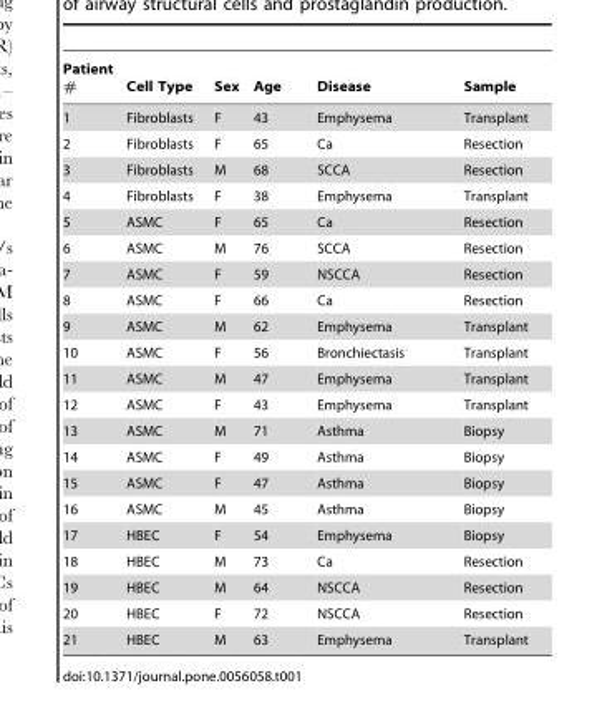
<table><thead><tr><td>Patient #</td><td>Cell Type</td><td>Sex</td><td>Age</td><td>Disease</td><td>Sample</td></tr></thead><tbody><tr><td>1</td><td>Fibroblasts</td><td>F</td><td>43</td><td>Emphysema</td><td>Transplant</td></tr><tr><td>2</td><td>Fibroblasts</td><td>F</td><td>65</td><td>Ca</td><td>Resection</td></tr><tr><td>3</td><td>Fibroblasts</td><td>M</td><td>68</td><td>SCCA</td><td>Resection</td></tr><tr><td>4</td><td>Fibroblasts</td><td>F</td><td>38</td><td>Emphysema</td><td>Transplant</td></tr><tr><td>5</td><td>ASMC</td><td>F</td><td>65</td><td>Ca</td><td>Resection</td></tr><tr><td>6</td><td>ASMC</td><td>M</td><td>76</td><td>SCCA</td><td>Resection</td></tr><tr><td>7</td><td>ASMC</td><td>F</td><td>59</td><td>NSCCA</td><td>Resection</td></tr><tr><td>8</td><td>ASMC</td><td>F</td><td>66</td><td>Ca</td><td>Resection</td></tr><tr><td>9</td><td>ASMC</td><td>M</td><td>62</td><td>Emphysema</td><td>Transplant</td></tr><tr><td>10</td><td>ASMC</td><td>F</td><td>56</td><td>Bronchiectasis</td><td>Transplant</td></tr><tr><td>11</td><td>ASMC</td><td>M</td><td>47</td><td>Emphysema</td><td>Transplant</td></tr><tr><td>12</td><td>ASMC</td><td>F</td><td>43</td><td>Emphysema</td><td>Transplant</td></tr><tr><td>13</td><td>ASMC</td><td>M</td><td>71</td><td>Asthma</td><td>Biopsy</td></tr><tr><td>14</td><td>ASMC</td><td>F</td><td>49</td><td>Asthma</td><td>Biopsy</td></tr><tr><td>15</td><td>ASMC</td><td>F</td><td>47</td><td>Asthma</td><td>Biopsy</td></tr><tr><td>16</td><td>ASMC</td><td>M</td><td>45</td><td>Asthma</td><td>Biopsy</td></tr><tr><td>17</td><td>HBEC</td><td>F</td><td>54</td><td>Emphysema</td><td>Biopsy</td></tr><tr><td>18</td><td>HBEC</td><td>M</td><td>73</td><td>Ca</td><td>Resection</td></tr><tr><td>19</td><td>HBEC</td><td>M</td><td>64</td><td>NSCCA</td><td>Resection</td></tr><tr><td>20</td><td>HBEC</td><td>F</td><td>72</td><td>NSCCA</td><td>Resection</td></tr><tr><td>21</td><td>HBEC</td><td>M</td><td>63</td><td>Emphysema</td><td>Transplant</td></tr></tbody></table>